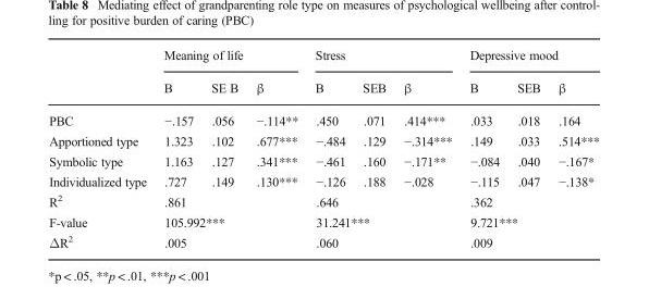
<table><thead><tr><td rowspan="2"></td><td colspan="3">Meaning of life</td><td colspan="3">Stress</td><td colspan="3">Depressive mood</td></tr><tr><td>B</td><td>SE B</td><td>β</td><td>B</td><td>SEB</td><td>β</td><td>B</td><td>SEB</td><td>β</td></tr></thead><tbody><tr><td>PBC</td><td>−.157</td><td>.056</td><td>−.114**</td><td>.450</td><td>.071</td><td>.414***</td><td>.033</td><td>.018</td><td>.164</td></tr><tr><td>Apportioned type</td><td>1.323</td><td>.102</td><td>.677***</td><td>−.484</td><td>.129</td><td>−.314***</td><td>.149</td><td>.033</td><td>.514***</td></tr><tr><td>Symbolic type</td><td>1.163</td><td>.127</td><td>.341***</td><td>−.461</td><td>.160</td><td>−.171**</td><td>−.084</td><td>.040</td><td>−.167*</td></tr><tr><td>Individualized type</td><td>.727</td><td>.149</td><td>.130***</td><td>−.126</td><td>.188</td><td>−.028</td><td>−.115</td><td>.047</td><td>−.138*</td></tr><tr><td>R<sup>2</sup></td><td colspan="3">.861</td><td colspan="3">.646</td><td colspan="3">.362</td></tr><tr><td>F-value</td><td colspan="3">105.992***</td><td colspan="3">31.241***</td><td colspan="3">9.721***</td></tr><tr><td>ΔR<sup>2</sup></td><td colspan="3">.005</td><td colspan="3">.060</td><td colspan="3">.009</td></tr></tbody></table>